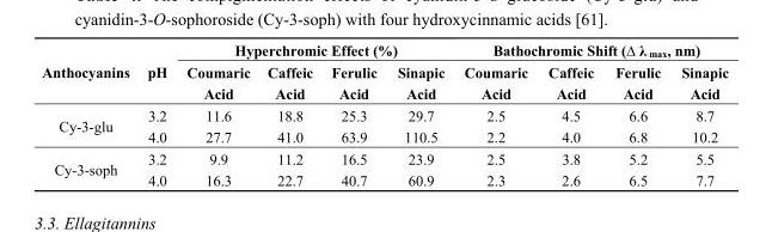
<table><thead><tr><td rowspan="2">Anthocyanins</td><td rowspan="2">pH</td><td colspan="4">Hyperchromic Effect (%)</td><td colspan="4">Bathochromic Shift (∆ λ <sub>max</sub>, nm)</td></tr><tr><td>Coumaric Acid</td><td>Caffeic Acid</td><td>Ferulic Acid</td><td>Sinapic Acid</td><td>Coumaric Acid</td><td>Caffeic Acid</td><td>Ferulic Acid</td><td>Sinapic Acid</td></tr></thead><tbody><tr><td rowspan="2">Cy-3-glu</td><td>3.2</td><td>11.6</td><td>18.8</td><td>25.3</td><td>29.7</td><td>2.5</td><td>4.5</td><td>6.6</td><td>8.7</td></tr><tr><td>4.0</td><td>27.7</td><td>41.0</td><td>63.9</td><td>110.5</td><td>2.2</td><td>4.0</td><td>6.8</td><td>10.2</td></tr><tr><td rowspan="2">Cy-3-soph</td><td>3.2</td><td>9.9</td><td>11.2</td><td>16.5</td><td>23.9</td><td>2.5</td><td>3.8</td><td>5.2</td><td>5.5</td></tr><tr><td>4.0</td><td>16.3</td><td>22.7</td><td>40.7</td><td>60.9</td><td>2.3</td><td>2.6</td><td>6.5</td><td>7.7</td></tr></tbody></table>